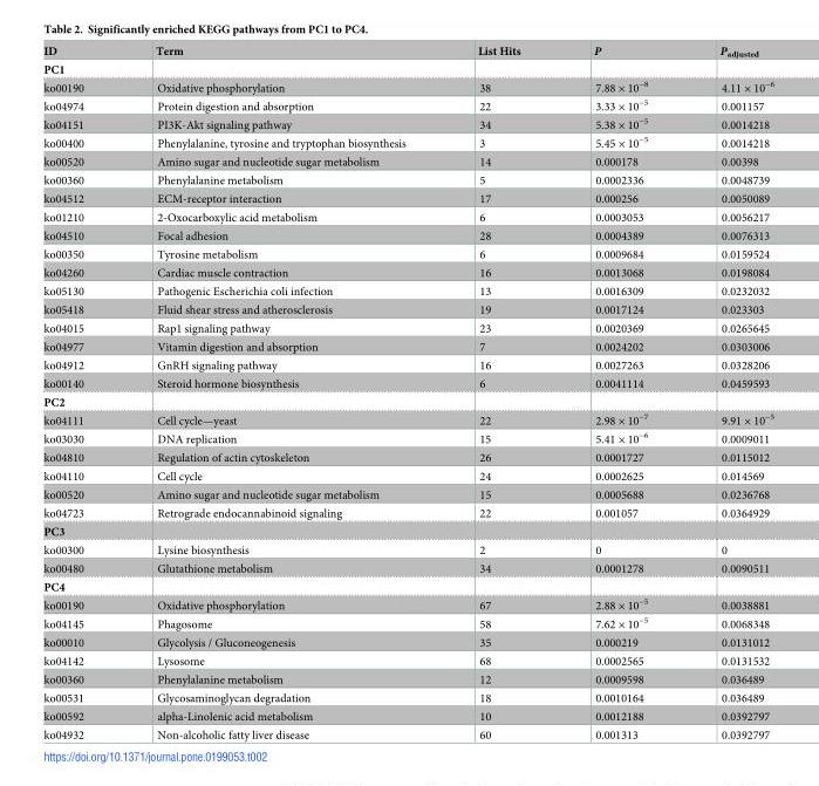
<table><thead><tr><td>ID</td><td>Term</td><td>List Hits</td><td>P</td><td>P<sub>adjusted</sub></td></tr></thead><tbody><tr><td colspan="5">PC1</td></tr><tr><td>ko00190</td><td>Oxidative phosphorylation</td><td>38</td><td>7.88 × 10<sup>−8</sup></td><td>4.11 × 10<sup>−6</sup></td></tr><tr><td>ko04974</td><td>Protein digestion and absorption</td><td>22</td><td>3.33 × 10<sup>−5</sup></td><td>0.001157</td></tr><tr><td>ko04151</td><td>PI3K-Akt signaling pathway</td><td>34</td><td>5.38 × 10<sup>−5</sup></td><td>0.0014218</td></tr><tr><td>ko00400</td><td>Phenylalanine, tyrosine and tryptophan biosynthesis</td><td>3</td><td>5.45 × 10<sup>−5</sup></td><td>0.0014218</td></tr><tr><td>ko00520</td><td>Amino sugar and nucleotide sugar metabolism</td><td>14</td><td>0.000178</td><td>0.00398</td></tr><tr><td>ko00360</td><td>Phenylalanine metabolism</td><td>5</td><td>0.0002336</td><td>0.0048739</td></tr><tr><td>ko04512</td><td>ECM-receptor interaction</td><td>17</td><td>0.000256</td><td>0.0050089</td></tr><tr><td>ko01210</td><td>2-Oxocarboxylic acid metabolism</td><td>6</td><td>0.0003053</td><td>0.0056217</td></tr><tr><td>ko04510</td><td>Focal adhesion</td><td>28</td><td>0.0004389</td><td>0.0076313</td></tr><tr><td>ko00350</td><td>Tyrosine metabolism</td><td>6</td><td>0.0009684</td><td>0.0159524</td></tr><tr><td>ko04260</td><td>Cardiac muscle contraction</td><td>16</td><td>0.0013068</td><td>0.0198084</td></tr><tr><td>ko05130</td><td>Pathogenic Escherichia coli infection</td><td>13</td><td>0.0016309</td><td>0.0232032</td></tr><tr><td>ko05418</td><td>Fluid shear stress and atherosclerosis</td><td>19</td><td>0.0017124</td><td>0.023303</td></tr><tr><td>ko04015</td><td>Rap1 signaling pathway</td><td>23</td><td>0.0020369</td><td>0.0265645</td></tr><tr><td>ko04977</td><td>Vitamin digestion and absorption</td><td>7</td><td>0.0024202</td><td>0.0303006</td></tr><tr><td>ko04912</td><td>GnRH signaling pathway</td><td>16</td><td>0.0027263</td><td>0.0328206</td></tr><tr><td>ko00140</td><td>Steroid hormone biosynthesis</td><td>6</td><td>0.0041114</td><td>0.0459593</td></tr><tr><td colspan="5">PC2</td></tr><tr><td>ko04111</td><td>Cell cycle—yeast</td><td>22</td><td>2.98 × 10<sup>−7</sup></td><td>9.91 × 10<sup>−5</sup></td></tr><tr><td>ko03030</td><td>DNA replication</td><td>15</td><td>5.41 × 10<sup>−6</sup></td><td>0.0009011</td></tr><tr><td>ko04810</td><td>Regulation of actin cytoskeleton</td><td>26</td><td>0.0001727</td><td>0.0115012</td></tr><tr><td>ko04110</td><td>Cell cycle</td><td>24</td><td>0.0002625</td><td>0.014569</td></tr><tr><td>ko00520</td><td>Amino sugar and nucleotide sugar metabolism</td><td>15</td><td>0.0005688</td><td>0.0236768</td></tr><tr><td>ko04723</td><td>Retrograde endocannabinoid signaling</td><td>22</td><td>0.001057</td><td>0.0364929</td></tr><tr><td colspan="5">PC3</td></tr><tr><td>ko00300</td><td>Lysine biosynthesis</td><td>2</td><td>0</td><td>0</td></tr><tr><td>ko00480</td><td>Glutathione metabolism</td><td>34</td><td>0.0001278</td><td>0.0090511</td></tr><tr><td colspan="5">PC4</td></tr><tr><td>ko00190</td><td>Oxidative phosphorylation</td><td>67</td><td>2.88 × 10<sup>−5</sup></td><td>0.0038881</td></tr><tr><td>ko04145</td><td>Phagosome</td><td>58</td><td>7.62 × 10<sup>−5</sup></td><td>0.0068348</td></tr><tr><td>ko00010</td><td>Glycolysis / Gluconeogenesis</td><td>35</td><td>0.000219</td><td>0.0131012</td></tr><tr><td>ko04142</td><td>Lysosome</td><td>68</td><td>0.0002565</td><td>0.0131532</td></tr><tr><td>ko00360</td><td>Phenylalanine metabolism</td><td>12</td><td>0.0009598</td><td>0.036489</td></tr><tr><td>ko00531</td><td>Glycosaminoglycan degradation</td><td>18</td><td>0.0010164</td><td>0.036489</td></tr><tr><td>ko00592</td><td>alpha-Linolenic acid metabolism</td><td>10</td><td>0.0012188</td><td>0.0392797</td></tr><tr><td>ko04932</td><td>Non-alcoholic fatty liver disease</td><td>60</td><td>0.001313</td><td>0.0392797</td></tr></tbody></table>